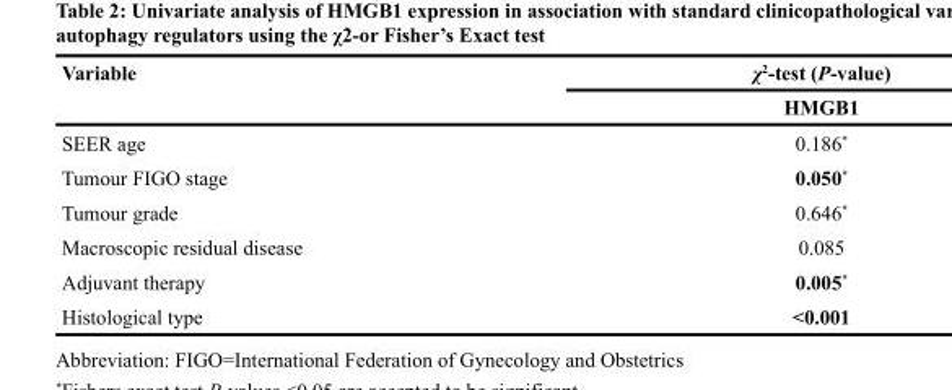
<table><thead><tr><td rowspan="2">Variable</td><td rowspan="2">χ<sup>2</sup>-test (P-value) HMGB1</td></tr><tr></tr></thead><tbody><tr><td>SEER age</td><td>0.186*</td></tr><tr><td>Tumour FIGO stage</td><td>0.050*</td></tr><tr><td>Tumour grade</td><td>0.646*</td></tr><tr><td>Macroscopic residual disease</td><td>0.085</td></tr><tr><td>Adjuvant therapy</td><td>0.005*</td></tr><tr><td>Histological type</td><td>&lt;0.001</td></tr></tbody></table>